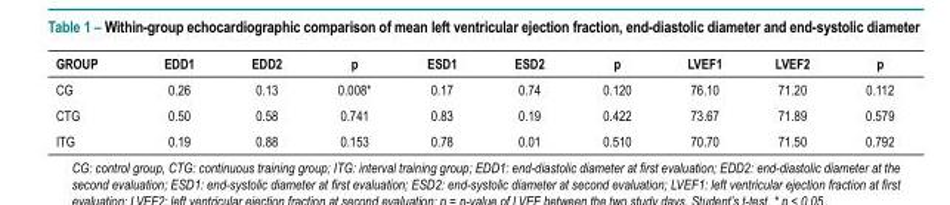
<table><thead><tr><td>GROUP</td><td>EDD1</td><td>EDD2</td><td>p</td><td>ESD1</td><td>ESD2</td><td>p</td><td>LVEF1</td><td>LVEF2</td><td>p</td></tr></thead><tbody><tr><td>CG</td><td>0.26</td><td>0.13</td><td>0.008*</td><td>0.17</td><td>0.74</td><td>0.120</td><td>76.10</td><td>71.20</td><td>0.112</td></tr><tr><td>CTG</td><td>0.50</td><td>0.58</td><td>0.741</td><td>0.83</td><td>0.19</td><td>0.422</td><td>73.67</td><td>71.89</td><td>0.579</td></tr><tr><td>ITG</td><td>0.19</td><td>0.88</td><td>0.153</td><td>0.78</td><td>0.01</td><td>0.510</td><td>70.70</td><td>71.50</td><td>0.792</td></tr></tbody></table>